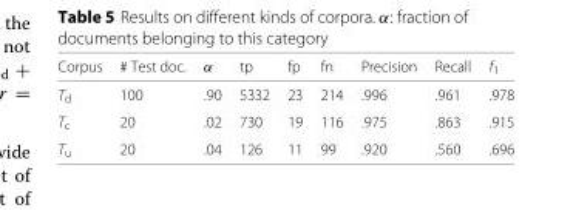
<table><thead><tr><td>Corpus</td><td># Test doc.</td><td>α</td><td>tp</td><td>fp</td><td>fn</td><td>Precision</td><td>Recall</td><td>f<sub>1</sub></td></tr></thead><tbody><tr><td>T<sub>d</sub></td><td>100</td><td>.90</td><td>5332</td><td>23</td><td>214</td><td>.996</td><td>.961</td><td>.978</td></tr><tr><td>T<sub>c</sub></td><td>20</td><td>.02</td><td>730</td><td>19</td><td>116</td><td>.975</td><td>.863</td><td>.915</td></tr><tr><td>T<sub>u</sub></td><td>20</td><td>.04</td><td>126</td><td>11</td><td>99</td><td>.920</td><td>.560</td><td>.696</td></tr></tbody></table>